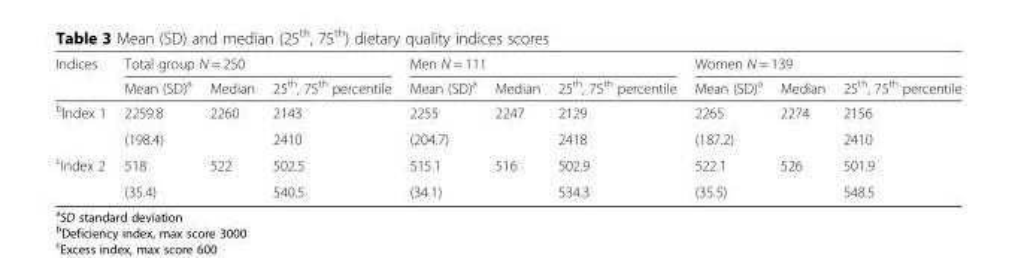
<table><thead><tr><td rowspan="2">Indices</td><td colspan="3">Total group N = 250</td><td colspan="3">Men N = 111</td><td colspan="3">Women N = 139</td></tr><tr><td>Mean (SD)<sup>a</sup></td><td>Median</td><td>25<sup>th</sup>, 75<sup>th</sup> percentile</td><td>Mean (SD)<sup>a</sup></td><td>Median</td><td>25<sup>th</sup>, 75<sup>th</sup> percentile</td><td>Mean (SD)<sup>a</sup></td><td>Median</td><td>25<sup>th</sup>, 75<sup>th</sup> percentile</td></tr></thead><tbody><tr><td rowspan="2"><sup>b</sup>Index 1</td><td>2259.8</td><td>2260</td><td>2143</td><td>2255</td><td>2247</td><td>2129</td><td>2265</td><td>2274</td><td>2156</td></tr><tr><td>(198.4)</td><td></td><td>2410</td><td>(204.7)</td><td></td><td>2418</td><td>(187.2)</td><td></td><td>2410</td></tr><tr><td rowspan="2"><sup>c</sup>Index 2</td><td>518</td><td>522</td><td>502.5</td><td>515.1</td><td>516</td><td>502.9</td><td>522.1</td><td>526</td><td>501.9</td></tr><tr><td>(35.4)</td><td></td><td>540.5</td><td>(34.1)</td><td></td><td>534.3</td><td>(35.5)</td><td></td><td>548.5</td></tr></tbody></table>